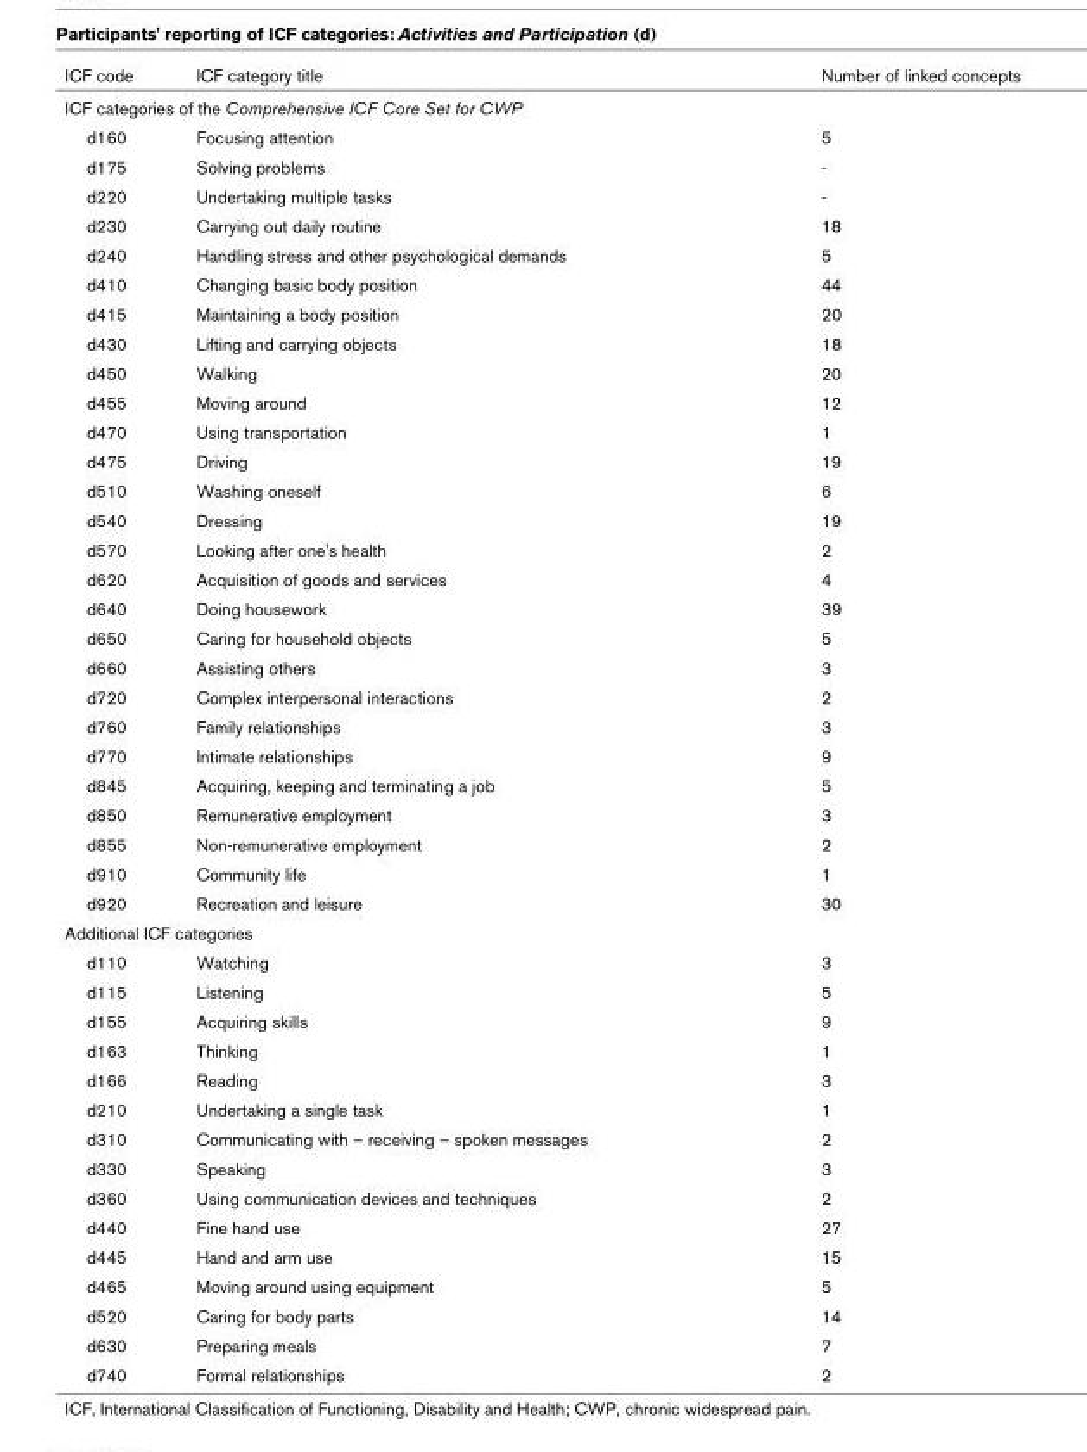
<table><thead><tr><td>ICF code</td><td>ICF category title</td><td>Number of linked concepts</td></tr></thead><tbody><tr><td colspan="3">ICF categories of the Comprehensive ICF Core Set for CWP</td></tr><tr><td>d160</td><td>Focusing attention</td><td>5</td></tr><tr><td>d175</td><td>Solving problems</td><td>-</td></tr><tr><td>d220</td><td>Undertaking multiple tasks</td><td>-</td></tr><tr><td>d230</td><td>Carrying out daily routine</td><td>18</td></tr><tr><td>d240</td><td>Handling stress and other psychological demands</td><td>5</td></tr><tr><td>d410</td><td>Changing basic body position</td><td>44</td></tr><tr><td>d415</td><td>Maintaining a body position</td><td>20</td></tr><tr><td>d430</td><td>Lifting and carrying objects</td><td>18</td></tr><tr><td>d450</td><td>Walking</td><td>20</td></tr><tr><td>d455</td><td>Moving around</td><td>12</td></tr><tr><td>d470</td><td>Using transportation</td><td>1</td></tr><tr><td>d475</td><td>Driving</td><td>19</td></tr><tr><td>d510</td><td>Washing oneself</td><td>6</td></tr><tr><td>d540</td><td>Dressing</td><td>19</td></tr><tr><td>d570</td><td>Looking after one&#x27;s health</td><td>2</td></tr><tr><td>d620</td><td>Acquisition of goods and services</td><td>4</td></tr><tr><td>d640</td><td>Doing housework</td><td>39</td></tr><tr><td>d650</td><td>Caring for household objects</td><td>5</td></tr><tr><td>d660</td><td>Assisting others</td><td>3</td></tr><tr><td>d720</td><td>Complex interpersonal interactions</td><td>2</td></tr><tr><td>d760</td><td>Family relationships</td><td>3</td></tr><tr><td>d770</td><td>Intimate relationships</td><td>9</td></tr><tr><td>d845</td><td>Acquiring, keeping and terminating a job</td><td>5</td></tr><tr><td>d850</td><td>Remunerative employment</td><td>3</td></tr><tr><td>d855</td><td>Non-remunerative employment</td><td>2</td></tr><tr><td>d910</td><td>Community life</td><td>1</td></tr><tr><td>d920</td><td>Recreation and leisure</td><td>30</td></tr><tr><td colspan="3">Additional ICF categories</td></tr><tr><td>d110</td><td>Watching</td><td>3</td></tr><tr><td>d115</td><td>Listening</td><td>5</td></tr><tr><td>d155</td><td>Acquiring skills</td><td>9</td></tr><tr><td>d163</td><td>Thinking</td><td>1</td></tr><tr><td>d166</td><td>Reading</td><td>3</td></tr><tr><td>d210</td><td>Undertaking a single task</td><td>1</td></tr><tr><td>d310</td><td>Communicating with – receiving – spoken messages</td><td>2</td></tr><tr><td>d330</td><td>Speaking</td><td>3</td></tr><tr><td>d360</td><td>Using communication devices and techniques</td><td>2</td></tr><tr><td>d440</td><td>Fine hand use</td><td>27</td></tr><tr><td>d445</td><td>Hand and arm use</td><td>15</td></tr><tr><td>d465</td><td>Moving around using equipment</td><td>5</td></tr><tr><td>d520</td><td>Caring for body parts</td><td>14</td></tr><tr><td>d630</td><td>Preparing meals</td><td>7</td></tr><tr><td>d740</td><td>Formal relationships</td><td>2</td></tr></tbody></table>